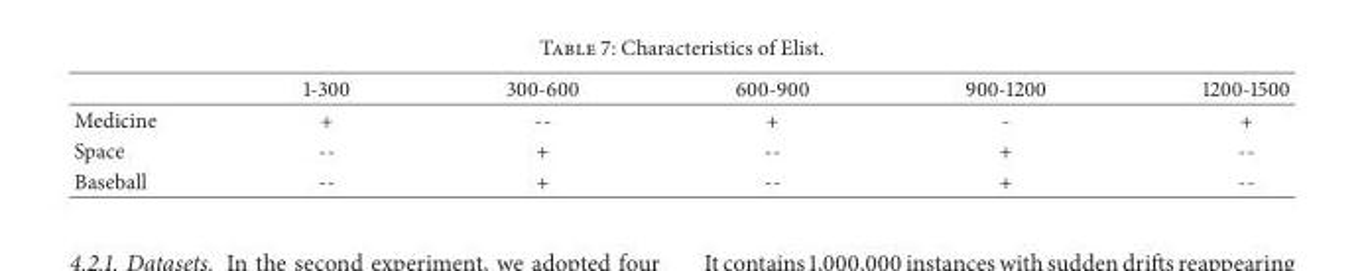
<table><thead><tr><td></td><td>1-300</td><td>300-600</td><td>600-900</td><td>900-1200</td><td>1200-1500</td></tr></thead><tbody><tr><td>Medicine</td><td>+</td><td>--</td><td>+</td><td>-</td><td>+</td></tr><tr><td>Space</td><td>--</td><td>+</td><td>--</td><td>+</td><td>--</td></tr><tr><td>Baseball</td><td>--</td><td>+</td><td>--</td><td>+</td><td>--</td></tr></tbody></table>